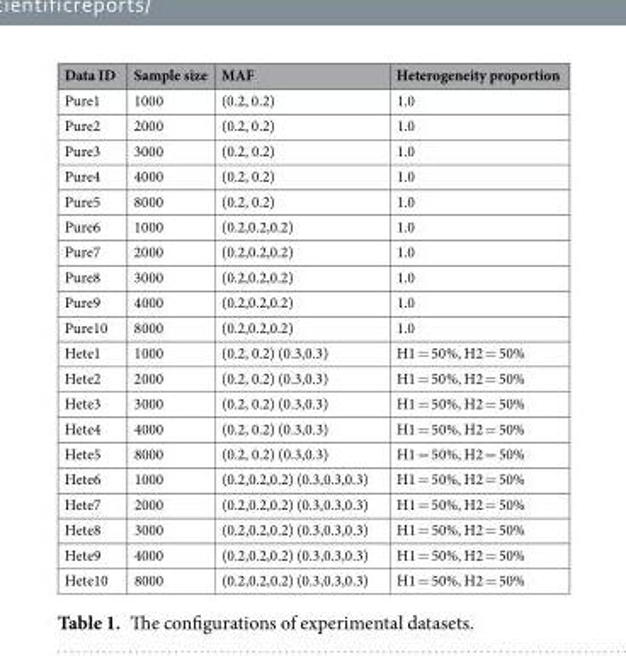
<table><thead><tr><td>Data ID</td><td>Sample size</td><td>MAF</td><td>Heterogeneity proportion</td></tr></thead><tbody><tr><td>Pure1</td><td>1000</td><td>(0.2, 0.2)</td><td>1.0</td></tr><tr><td>Pure2</td><td>2000</td><td>(0.2, 0.2)</td><td>1.0</td></tr><tr><td>Pure3</td><td>3000</td><td>(0.2, 0.2)</td><td>1.0</td></tr><tr><td>Pure4</td><td>4000</td><td>(0.2, 0.2)</td><td>1.0</td></tr><tr><td>Pure5</td><td>8000</td><td>(0.2, 0.2)</td><td>1.0</td></tr><tr><td>Pure6</td><td>1000</td><td>(0.2,0.2,0.2)</td><td>1.0</td></tr><tr><td>Pure7</td><td>2000</td><td>(0.2,0.2,0.2)</td><td>1.0</td></tr><tr><td>Pure8</td><td>3000</td><td>(0.2,0.2,0.2)</td><td>1.0</td></tr><tr><td>Pure9</td><td>4000</td><td>(0.2,0.2,0.2)</td><td>1.0</td></tr><tr><td>Pure10</td><td>8000</td><td>(0.2,0.2,0.2)</td><td>1.0</td></tr><tr><td>Hete1</td><td>1000</td><td>(0.2, 0.2) (0.3,0.3)</td><td>H1 = 50%, H2 = 50%</td></tr><tr><td>Hete2</td><td>2000</td><td>(0.2, 0.2) (0.3,0.3)</td><td>H1 = 50%, H2 = 50%</td></tr><tr><td>Hete3</td><td>3000</td><td>(0.2, 0.2) (0.3,0.3)</td><td>H1 = 50%, H2 = 50%</td></tr><tr><td>Hete4</td><td>4000</td><td>(0.2, 0.2) (0.3,0.3)</td><td>H1 = 50%, H2 = 50%</td></tr><tr><td>Hete5</td><td>8000</td><td>(0.2, 0.2) (0.3,0.3)</td><td>H1 = 50%, H2 = 50%</td></tr><tr><td>Hete6</td><td>1000</td><td>(0.2,0.2,0.2) (0.3,0.3,0.3)</td><td>H1 = 50%, H2 = 50%</td></tr><tr><td>Hete7</td><td>2000</td><td>(0.2,0.2,0.2) (0.3,0.3,0.3)</td><td>H1 = 50%, H2 = 50%</td></tr><tr><td>Hete8</td><td>3000</td><td>(0.2,0.2,0.2) (0.3,0.3,0.3)</td><td>H1 = 50%, H2 = 50%</td></tr><tr><td>Hete9</td><td>4000</td><td>(0.2,0.2,0.2) (0.3,0.3,0.3)</td><td>H1 = 50%, H2 = 50%</td></tr><tr><td>Hete10</td><td>8000</td><td>(0.2,0.2,0.2) (0.3,0.3,0.3)</td><td>H1 = 50%, H2 = 50%</td></tr></tbody></table>